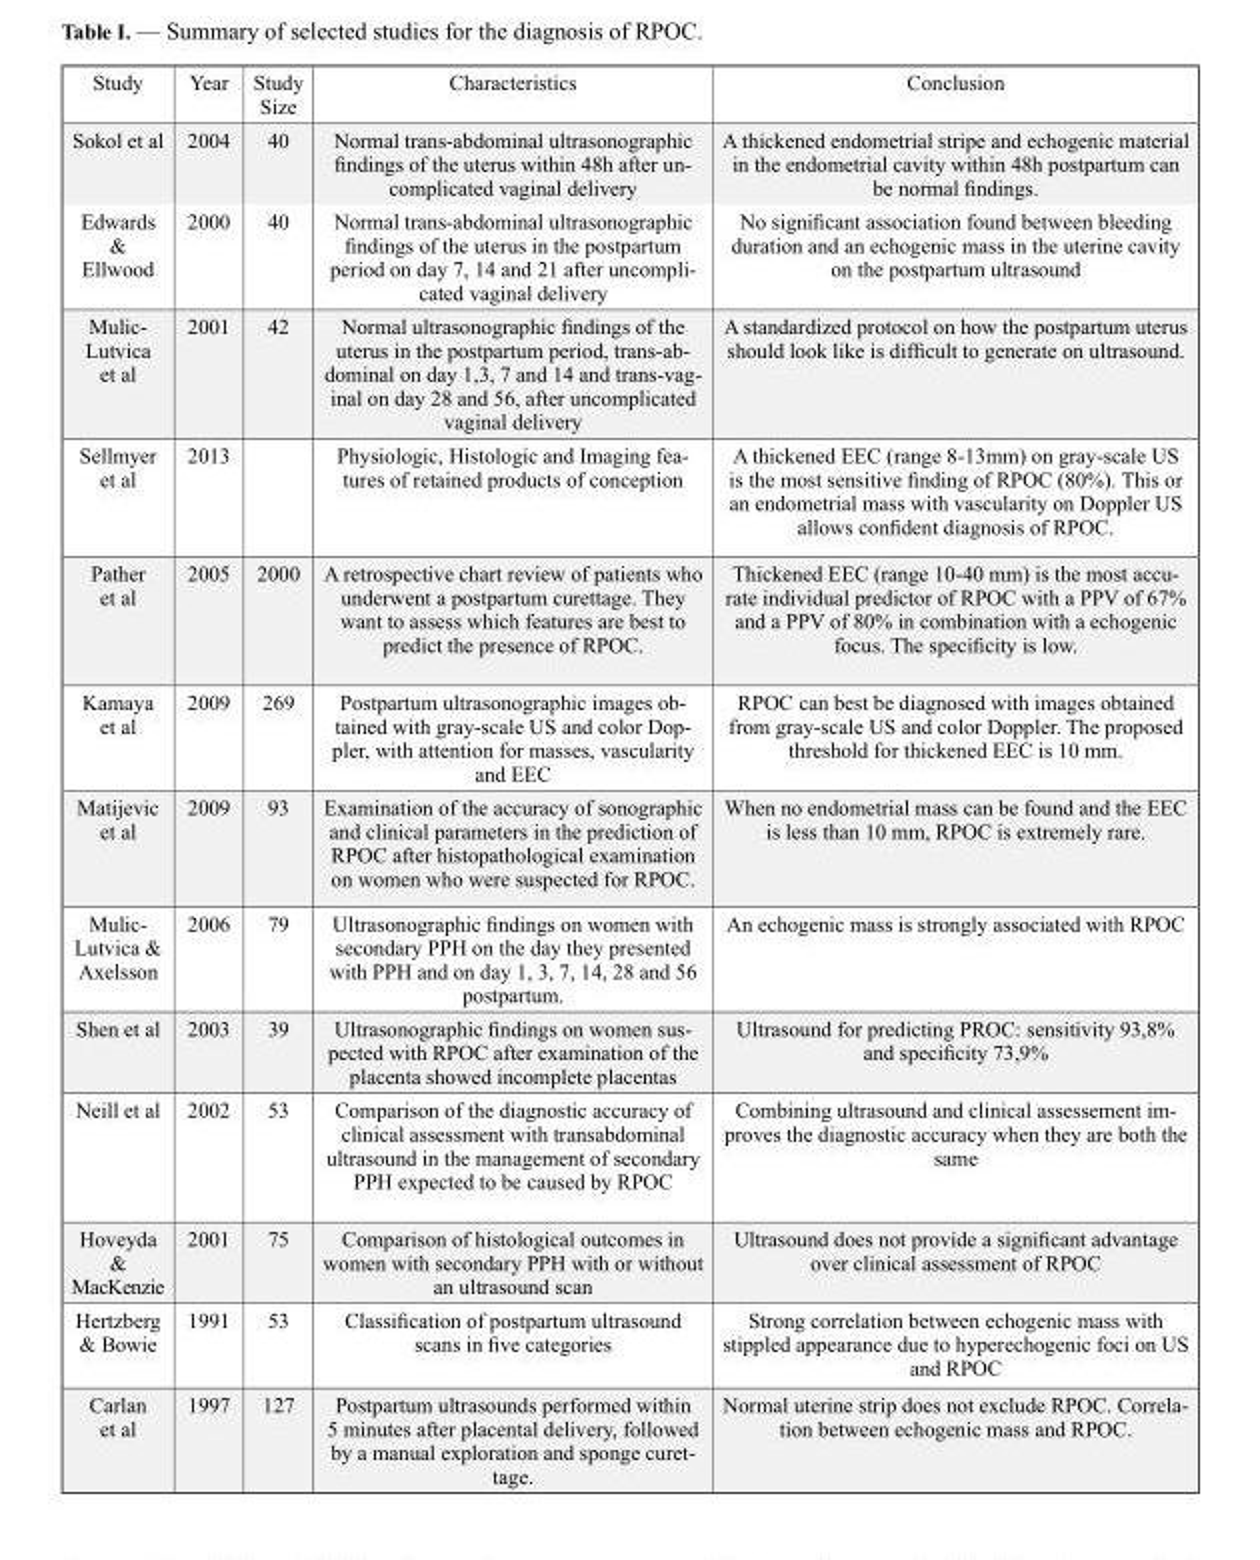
<table><thead><tr><td>Study</td><td>Year</td><td>Study Size</td><td>Characteristics</td><td>Conclusion</td></tr></thead><tbody><tr><td>Sokol et al</td><td>2004</td><td>40</td><td>Normal trans-abdominal ultrasonographic findings of the uterus within 48h after un- complicated vaginal delivery</td><td>A thickened endometrial stripe and echogenic material in the endometrial cavity within 48h postpartum can be normal findings.</td></tr><tr><td>Edwards &amp; Ellwood</td><td>2000</td><td>40</td><td>Normal trans-abdominal ultrasonographic findings of the uterus in the postpartum period on day 7, 14 and 21 after uncompli- cated vaginal delivery</td><td>No significant association found between bleeding duration and an echogenic mass in the uterine cavity on the postpartum ultrasound</td></tr><tr><td>Mulic- Lutvica et al</td><td>2001</td><td>42</td><td>Normal ultrasonographic findings of the uterus in the postpartum period, trans-ab- dominal on day 1,3, 7 and 14 and trans-vag- inal on day 28 and 56, after uncomplicated vaginal delivery</td><td>A standardized protocol on how the postpartum uterus should look like is difficult to generate on ultrasound.</td></tr><tr><td>Sellmyer et al</td><td>2013</td><td></td><td>Physiologic, Histologic and Imaging fea- tures of retained products of conception</td><td>A thickened EEC (range 8-13mm) on gray-scale US is the most sensitive finding of RPOC (80%). This or an endometrial mass with vascularity on Doppler US allows confident diagnosis of RPOC.</td></tr><tr><td>Pather et al</td><td>2005</td><td>2000</td><td>A retrospective chart review of patients who underwent a postpartum curettage. They want to assess which features are best to predict the presence of RPOC.</td><td>Thickened EEC (range 10-40 mm) is the most accu- rate individual predictor of RPOC with a PPV of 67% and a PPV of 80% in combination with a echogenic focus. The specificity is low.</td></tr><tr><td>Kamaya et al</td><td>2009</td><td>269</td><td>Postpartum ultrasonographic images ob- tained with gray-scale US and color Dop- pler, with attention for masses, vascularity and EEC</td><td>RPOC can best be diagnosed with images obtained from gray-scale US and color Doppler. The proposed threshold for thickened EEC is 10 mm.</td></tr><tr><td>Matijevic et al</td><td>2009</td><td>93</td><td>Examination of the accuracy of sonographic and clinical parameters in the prediction of RPOC after histopathological examination on women who were suspected for RPOC.</td><td>When no endometrial mass can be found and the EEC is less than 10 mm, RPOC is extremely rare.</td></tr><tr><td>Mulic- Lutvica &amp; Axelsson</td><td>2006</td><td>79</td><td>Ultrasonographic findings on women with secondary PPH on the day they presented with PPH and on day 1, 3, 7, 14, 28 and 56 postpartum.</td><td>An echogenic mass is strongly associated with RPOC</td></tr><tr><td>Shen et al</td><td>2003</td><td>39</td><td>Ultrasonographic findings on women sus- pected with RPOC after examination of the placenta showed incomplete placentas</td><td>Ultrasound for predicting PROC: sensitivity 93,8% and specificity 73,9%</td></tr><tr><td>Neill et al</td><td>2002</td><td>53</td><td>Comparison of the diagnostic accuracy of clinical assessment with transabdominal ultrasound in the management of secondary PPH expected to be caused by RPOC</td><td>Combining ultrasound and clinical assessement im- proves the diagnostic accuracy when they are both the same</td></tr><tr><td>Hoveyda &amp; MacKenzie</td><td>2001</td><td>75</td><td>Comparison of histological outcomes in women with secondary PPH with or without an ultrasound scan</td><td>Ultrasound does not provide a significant advantage over clinical assessment of RPOC</td></tr><tr><td>Hertzberg &amp; Bowie</td><td>1991</td><td>53</td><td>Classification of postpartum ultrasound scans in five categories</td><td>Strong correlation between echogenic mass with stippled appearance due to hyperechogenic foci on US and RPOC</td></tr><tr><td>Carlan et al</td><td>1997</td><td>127</td><td>Postpartum ultrasounds performed within 5 minutes after placental delivery, followed by a manual exploration and sponge curet- tage.</td><td>Normal uterine strip does not exclude RPOC. Correla- tion between echogenic mass and RPOC.</td></tr></tbody></table>